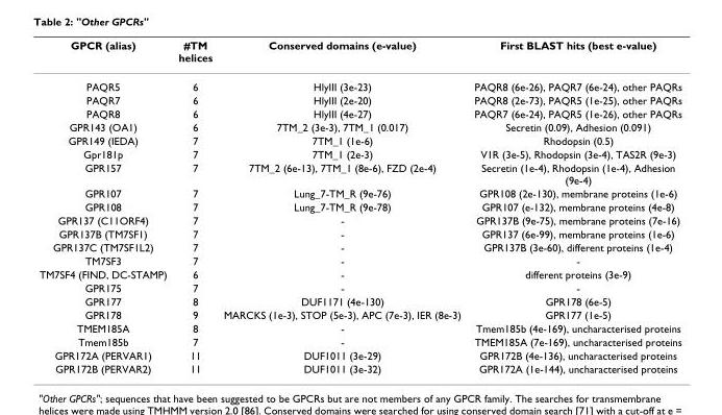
<table><thead><tr><td>GPCR (alias)</td><td>#TM helices</td><td>Conserved domains (e-value)</td><td>First BLAST hits (best e-value)</td></tr></thead><tbody><tr><td>PAQR5</td><td>6</td><td>HlyIII (3e-23)</td><td>PAQR8 (6e-26), PAQR7 (6e-24), other PAQRs</td></tr><tr><td>PAQR7</td><td>6</td><td>HlyIII (2e-20)</td><td>PAQR8 (2e-73), PAQR5 (1e-25), other PAQRs</td></tr><tr><td>PAQR8</td><td>6</td><td>HlyIII (4e-27)</td><td>PAQR7 (6e-24), PAQR5 (1e-26), other PAQRs</td></tr><tr><td>GPR143 (OA1)</td><td>6</td><td>7TM_2 (3e-3), 7TM_1 (0.017)</td><td>Secretin (0.09), Adhesion (0.091)</td></tr><tr><td>GPR149 (IEDA)</td><td>7</td><td>7TM_1 (1e-6)</td><td>Rhodopsin (0.5)</td></tr><tr><td>Gpr181p</td><td>7</td><td>7TM_1 (2e-3)</td><td>V1R (3e-5), Rhodopsin (3e-4), TAS2R (9e-3)</td></tr><tr><td>GPR157</td><td>7</td><td>7TM_2 (6e-13), 7TM_1 (8e-6), FZD (2e-4)</td><td>Secretin (1e-4), Rhodopsin (1e-4), Adhesion (9e-4)</td></tr><tr><td>GPR107</td><td>7</td><td>Lung_7-TM_R (9e-76)</td><td>GPR108 (2e-130), membrane proteins (1e-6)</td></tr><tr><td>GPR108</td><td>7</td><td>Lung_7-TM_R (9e-78)</td><td>GPR107 (e-132), membrane proteins (4e-8)</td></tr><tr><td>GPR137 (C11ORF4)</td><td>7</td><td>-</td><td>GPR137B (9e-75), membrane proteins (7e-16)</td></tr><tr><td>GPR137B (TM7SF1)</td><td>7</td><td>-</td><td>GPR137 (6e-99), membrane proteins (1e-6)</td></tr><tr><td>GPR137C (TM7SF1L2)</td><td>7</td><td>-</td><td>GPR137B (3e-60), different proteins (1e-4)</td></tr><tr><td>TM7SF3</td><td>7</td><td>-</td><td>-</td></tr><tr><td>TM7SF4 (FIND, DC-STAMP)</td><td>6</td><td>-</td><td>different proteins (3e-9)</td></tr><tr><td>GPR175</td><td>7</td><td>-</td><td>-</td></tr><tr><td>GPR177</td><td>8</td><td>DUF1171 (4e-130)</td><td>GPR178 (6e-5)</td></tr><tr><td>GPR178</td><td>9</td><td>MARCKS (1e-3), STOP (5e-3), APC (7e-3), IER (8e-3)</td><td>GPR177 (1e-5)</td></tr><tr><td>TMEM185A</td><td>8</td><td>-</td><td>Tmem185b (4e-169), uncharacterised proteins</td></tr><tr><td>Tmem185b</td><td>7</td><td>-</td><td>TMEM185A (7e-169), uncharacterised proteins</td></tr><tr><td>GPR172A (PERVAR1)</td><td>11</td><td>DUF1011 (3e-29)</td><td>GPR172B (4e-136), uncharacterised proteins</td></tr><tr><td>GPR172B (PERVAR2)</td><td>11</td><td>DUF1011 (3e-32)</td><td>GPR172A (1e-144), uncharacterised proteins</td></tr></tbody></table>